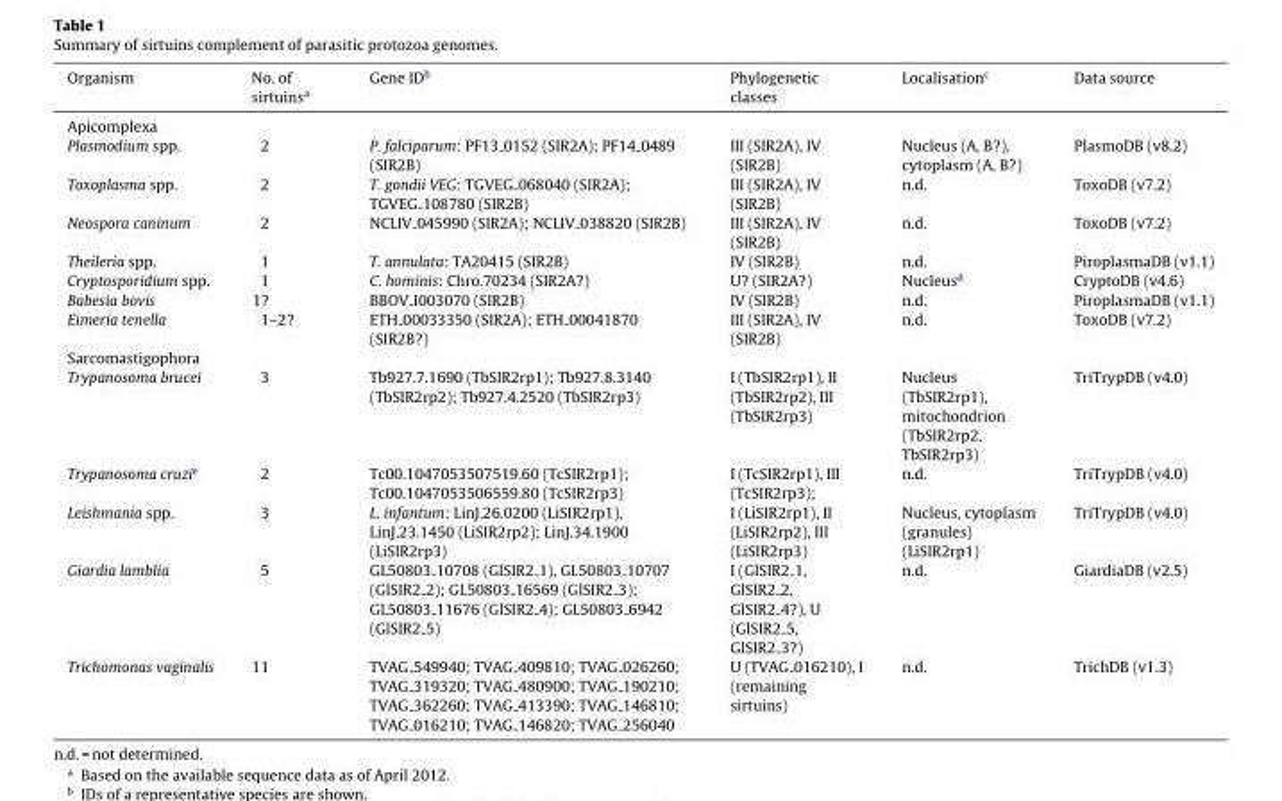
<table><thead><tr><td>Organism</td><td>No. of sirtuins<sup>a</sup></td><td>Gene ID<sup>b</sup></td><td>Phylogenetic classes</td><td>Localisation<sup>c</sup></td><td>Data source</td></tr></thead><tbody><tr><td colspan="6">Apicomplexa</td></tr><tr><td>Plasmodium spp.</td><td>2</td><td>P. falciparum: PF13 <sub>0152 (SIR2A); PF14</sub> 0489 (SIR2B)</td><td>III (SIR2A), IV (SIR2B)</td><td>Nucleus (A, B?), cytoplasm (A, B?)</td><td>PlasmoDB (v8.2)</td></tr><tr><td>Toxoplasma spp.</td><td>2</td><td>T. gondii VEG: TGVEG <sub>068040 (SIR2A); TGVEG</sub> 108780 (SIR2B)</td><td>III (SIR2A), IV (SIR2B)</td><td>n.d.</td><td>ToxoDB (v7.2)</td></tr><tr><td>Neospora caninum</td><td>2</td><td>NCLIV <sub>045990 (SIR2A); NCLIV</sub> 038820 (SIR2B)</td><td>III (SIR2A), IV (SIR2B)</td><td>n.d.</td><td>ToxoDB (v7.2)</td></tr><tr><td>Theileria spp.</td><td>1</td><td>T. annulata: TA20415 (SIR2B)</td><td>IV (SIR2B)</td><td>n.d.</td><td>PiroplasmaDB (v1.1)</td></tr><tr><td>Cryptosporidium spp.</td><td>1</td><td>C. hominis: Chro.70234 (SIR2A?)</td><td>U? (SIR2A?)</td><td>Nucleus<sup>d</sup></td><td>CryptoDB (v4.6)</td></tr><tr><td>Babesia bovis</td><td>1?</td><td>BBOV I003070 (SIR2B)</td><td>IV (SIR2B)</td><td>n.d.</td><td>PiroplasmaDB (v1.1)</td></tr><tr><td>Eimeria tenella</td><td>1–2?</td><td>ETH <sub>00033350 (SIR2A); ETH</sub> 00041870 (SIR2B?)</td><td>III (SIR2A), IV (SIR2B)</td><td>n.d.</td><td>ToxoDB (v7.2)</td></tr><tr><td colspan="6">Sarcomastigophora</td></tr><tr><td>Trypanosoma brucei</td><td>3</td><td>Tb927.7.1690 (TbSIR2rp1); Tb927.8.3140 (TbSIR2rp2); Tb927.4.2520 (TbSIR2rp3)</td><td>I (TbSIR2rp1), II (TbSIR2rp2), III (TbSIR2rp3)</td><td>Nucleus (TbSIR2rp1), mitochondrion (TbSIR2rp2, TbSIR2rp3)</td><td>TriTrypDB (v4.0)</td></tr><tr><td>Trypanosoma cruzi<sup>e</sup></td><td>2</td><td>Tc00.1047053507519.60 (TcSIR2rp1); Tc00.1047053506559.80 (TcSIR2rp3)</td><td>I (TcSIR2rp1), III (TcSIR2rp3);</td><td>n.d.</td><td>TriTrypDB (v4.0)</td></tr><tr><td>Leishmania spp.</td><td>3</td><td>L. infantum: LinJ.26.0200 (LiSIR2rp1), LinJ.23.1450 (LiSIR2rp2); LinJ.34.1900 (LiSIR2rp3)</td><td>I (LiSIR2rp1), II (LiSIR2rp2), III (LiSIR2rp3)</td><td>Nucleus, cytoplasm (granules) (LiSIR2rp1)</td><td>TriTrypDB (v4.0)</td></tr><tr><td>Giardia lamblia</td><td>5</td><td>GL50803 <sub>10708 (GlSIR2</sub> 1), GL50803 <sub>10707 (GlSIR2</sub> 2); GL50803 <sub>16569 (GlSIR2</sub> 3); GL50803 <sub>11676 (GlSIR2</sub> 4); GL50803 <sub>6942 (GlSIR2</sub> 5)</td><td>I (GlSIR2 1, GlSIR2 2, GlSIR2 4?), U (GlSIR2 5, GlSIR2 3?)</td><td>n.d.</td><td>GiardiaDB (v2.5)</td></tr><tr><td>Trichomonas vaginalis</td><td>11</td><td>TVAG <sub>549940; TVAG</sub> 409810; TVAG <sub>026260; TVAG</sub> 319320; TVAG <sub>480900; TVAG</sub> 190210; TVAG <sub>362260; TVAG</sub> 413390; TVAG <sub>146810; TVAG</sub> 016210; TVAG <sub>146820; TVAG</sub> 256040</td><td>U (TVAG 016210), I (remaining sirtuins)</td><td>n.d.</td><td>TrichDB (v1.3)</td></tr></tbody></table>